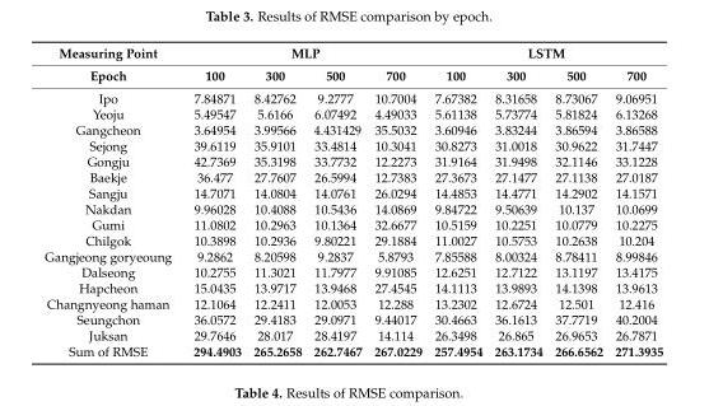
<table><thead><tr><td rowspan="2">Measuring Point Epoch</td><td colspan="4">MLP</td><td colspan="4">LSTM</td></tr><tr><td>100</td><td>300</td><td>500</td><td>700</td><td>100</td><td>300</td><td>500</td><td>700</td></tr></thead><tbody><tr><td>Ipo</td><td>7.84871</td><td>8.42762</td><td>9.2777</td><td>10.7004</td><td>7.67382</td><td>8.31658</td><td>8.73067</td><td>9.06951</td></tr><tr><td>Yeoju</td><td>5.49547</td><td>5.6166</td><td>6.07492</td><td>4.49033</td><td>5.61138</td><td>5.73774</td><td>5.81824</td><td>6.13268</td></tr><tr><td>Gangcheon</td><td>3.64954</td><td>3.99566</td><td>4.431429</td><td>35.5032</td><td>3.60946</td><td>3.83244</td><td>3.86594</td><td>3.86588</td></tr><tr><td>Sejong</td><td>39.6119</td><td>35.9101</td><td>33.4814</td><td>10.3041</td><td>30.8273</td><td>31.0018</td><td>30.9622</td><td>31.7447</td></tr><tr><td>Gongju</td><td>42.7369</td><td>35.3198</td><td>33.7732</td><td>12.2273</td><td>31.9164</td><td>31.9498</td><td>32.1146</td><td>33.1228</td></tr><tr><td>Baekje</td><td>36.477</td><td>27.7607</td><td>26.5994</td><td>12.7383</td><td>27.3673</td><td>27.1477</td><td>27.1138</td><td>27.0187</td></tr><tr><td>Sangju</td><td>14.7071</td><td>14.0804</td><td>14.0761</td><td>26.0294</td><td>14.4853</td><td>14.4771</td><td>14.2902</td><td>14.1571</td></tr><tr><td>Nakdan</td><td>9.96028</td><td>10.4088</td><td>10.5436</td><td>14.0869</td><td>9.84722</td><td>9.50639</td><td>10.137</td><td>10.0699</td></tr><tr><td>Gumi</td><td>11.0802</td><td>10.2963</td><td>10.1364</td><td>32.6677</td><td>10.5159</td><td>10.2251</td><td>10.0779</td><td>10.2275</td></tr><tr><td>Chilgok</td><td>10.3898</td><td>10.2936</td><td>9.80221</td><td>29.1884</td><td>11.0027</td><td>10.5753</td><td>10.2638</td><td>10.204</td></tr><tr><td>Gangjeong goryeoung</td><td>9.2862</td><td>8.20598</td><td>9.2837</td><td>5.8793</td><td>7.85588</td><td>8.00324</td><td>8.78411</td><td>8.99846</td></tr><tr><td>Dalseong</td><td>10.2755</td><td>11.3021</td><td>11.7977</td><td>9.91085</td><td>12.6251</td><td>12.7122</td><td>13.1197</td><td>13.4175</td></tr><tr><td>Hapcheon</td><td>15.0435</td><td>13.9717</td><td>13.9468</td><td>27.4545</td><td>14.1113</td><td>13.9893</td><td>14.1398</td><td>13.9613</td></tr><tr><td>Changnyeong haman</td><td>12.1064</td><td>12.2411</td><td>12.0053</td><td>12.288</td><td>13.2302</td><td>12.6724</td><td>12.501</td><td>12.416</td></tr><tr><td>Seungchon</td><td>36.0572</td><td>29.4183</td><td>29.0971</td><td>9.44017</td><td>30.4663</td><td>36.1613</td><td>37.7719</td><td>40.2004</td></tr><tr><td>Juksan</td><td>29.7646</td><td>28.017</td><td>28.4197</td><td>14.114</td><td>26.3498</td><td>26.865</td><td>26.9653</td><td>26.7871</td></tr><tr><td>Sum of RMSE</td><td>294.4903</td><td>265.2658</td><td>262.7467</td><td>267.0229</td><td>257.4954</td><td>263.1734</td><td>266.6562</td><td>271.3935</td></tr></tbody></table>